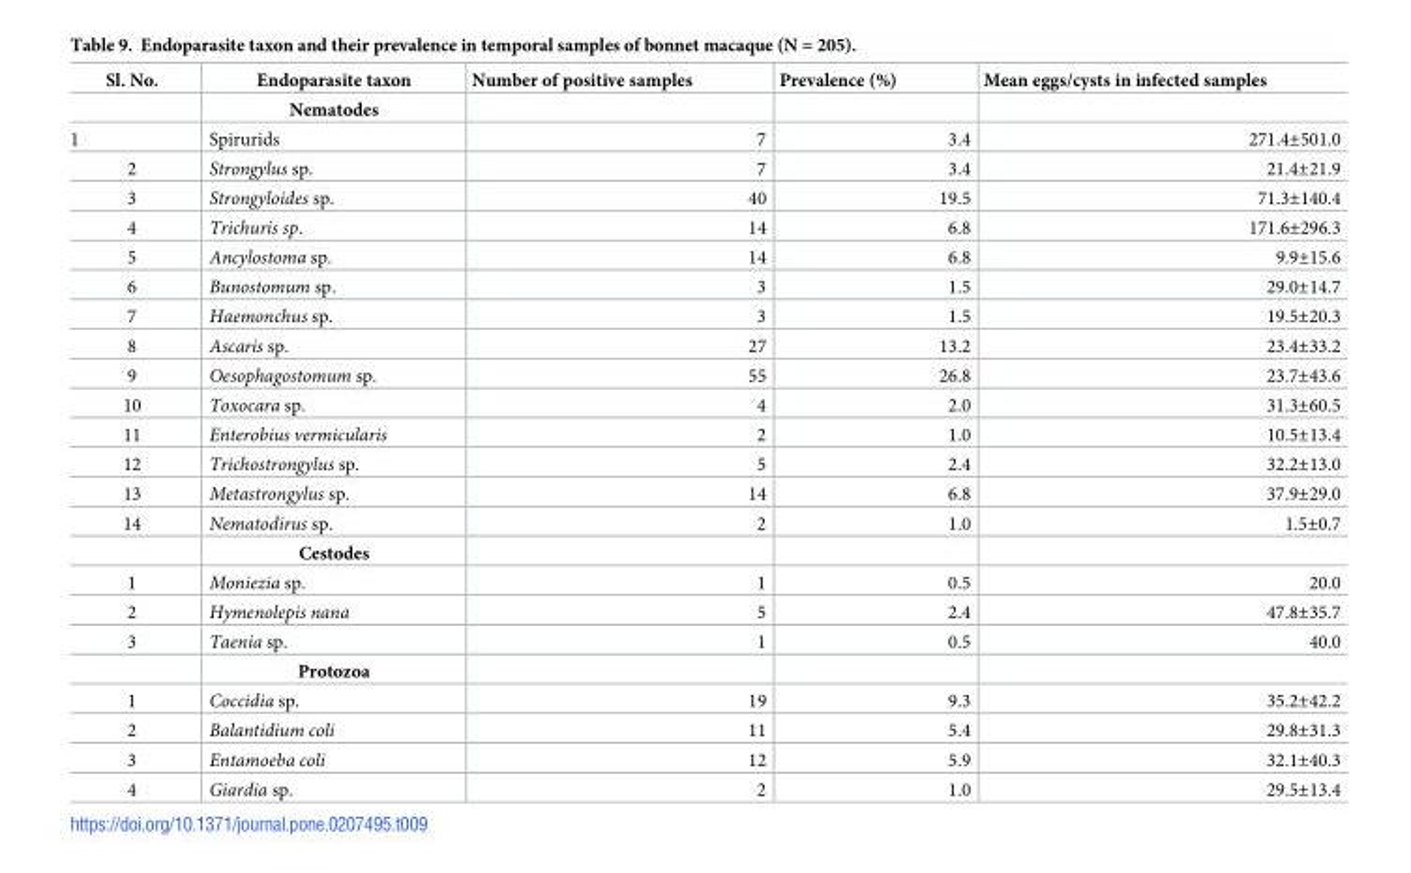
<table><thead><tr><td>Sl. No.</td><td>Endoparasite taxon</td><td>Number of positive samples</td><td>Prevalence (%)</td><td>Mean eggs/cysts in infected samples</td></tr></thead><tbody><tr><td></td><td>Nematodes</td><td></td><td></td><td></td></tr><tr><td>1</td><td>Spirurids</td><td>7</td><td>3.4</td><td>271.4±501.0</td></tr><tr><td>2</td><td>Strongylus sp.</td><td>7</td><td>3.4</td><td>21.4±21.9</td></tr><tr><td>3</td><td>Strongyloides sp.</td><td>40</td><td>19.5</td><td>71.3±140.4</td></tr><tr><td>4</td><td>Trichuris sp.</td><td>14</td><td>6.8</td><td>171.6±296.3</td></tr><tr><td>5</td><td>Ancylostoma sp.</td><td>14</td><td>6.8</td><td>9.9±15.6</td></tr><tr><td>6</td><td>Bunostomum sp.</td><td>3</td><td>1.5</td><td>29.0±14.7</td></tr><tr><td>7</td><td>Haemonchus sp.</td><td>3</td><td>1.5</td><td>19.5±20.3</td></tr><tr><td>8</td><td>Ascaris sp.</td><td>27</td><td>13.2</td><td>23.4±33.2</td></tr><tr><td>9</td><td>Oesophagostomum sp.</td><td>55</td><td>26.8</td><td>23.7±43.6</td></tr><tr><td>10</td><td>Toxocara sp.</td><td>4</td><td>2.0</td><td>31.3±60.5</td></tr><tr><td>11</td><td>Enterobius vermicularis</td><td>2</td><td>1.0</td><td>10.5±13.4</td></tr><tr><td>12</td><td>Trichostrongylus sp.</td><td>5</td><td>2.4</td><td>32.2±13.0</td></tr><tr><td>13</td><td>Metastrongylus sp.</td><td>14</td><td>6.8</td><td>37.9±29.0</td></tr><tr><td rowspan="2">14</td><td>Nematodirus sp.</td><td>2</td><td>1.0</td><td>1.5±0.7</td></tr><tr><td>Cestodes</td><td></td><td></td><td></td></tr><tr><td>1</td><td>Moniezia sp.</td><td>1</td><td>0.5</td><td>20.0</td></tr><tr><td>2</td><td>Hymenolepis nana</td><td>5</td><td>2.4</td><td>47.8±35.7</td></tr><tr><td rowspan="2">3</td><td>Taenia sp.</td><td>1</td><td>0.5</td><td>40.0</td></tr><tr><td>Protozoa</td><td></td><td></td><td></td></tr><tr><td>1</td><td>Coccidia sp.</td><td>19</td><td>9.3</td><td>35.2±42.2</td></tr><tr><td>2</td><td>Balantidium coli</td><td>11</td><td>5.4</td><td>29.8±31.3</td></tr><tr><td>3</td><td>Entamoeba coli</td><td>12</td><td>5.9</td><td>32.1±40.3</td></tr><tr><td>4</td><td>Giardia sp.</td><td>2</td><td>1.0</td><td>29.5±13.4</td></tr></tbody></table>